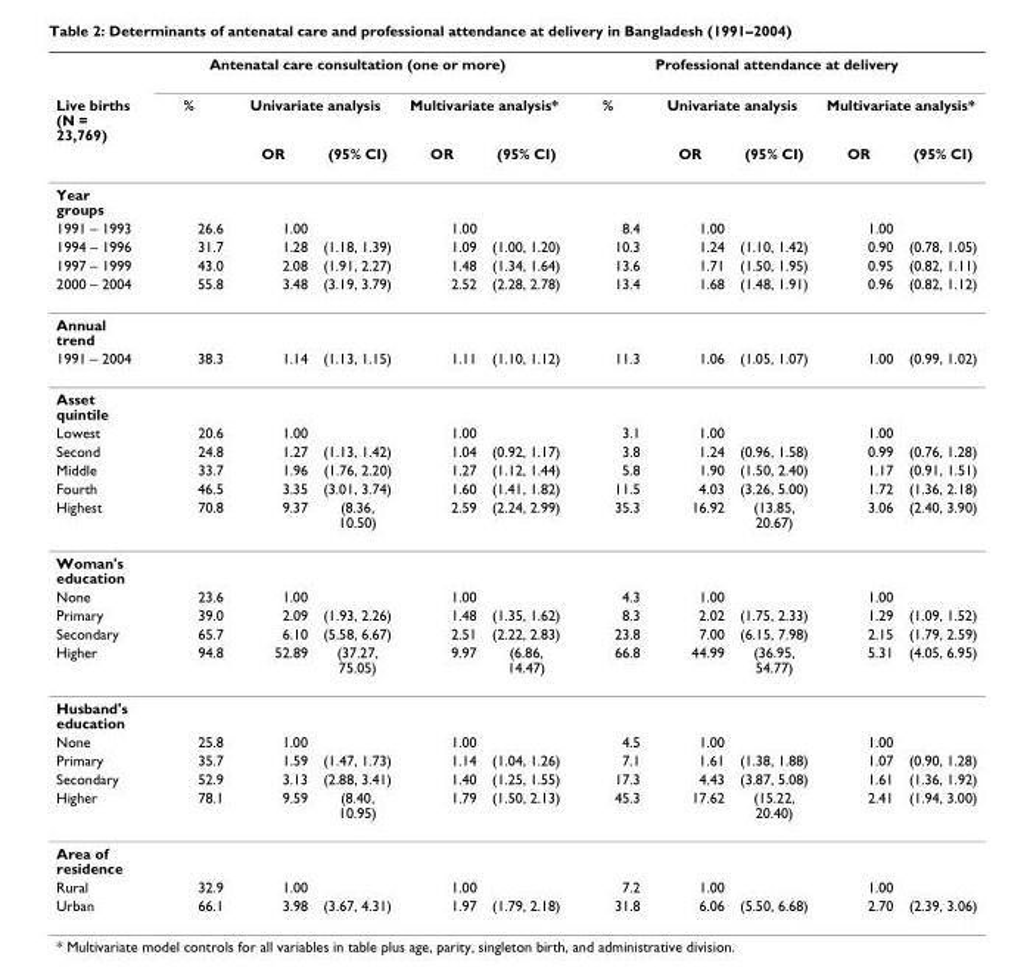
<table><thead><tr><td rowspan="3">Live births (N = 23,769)</td><td colspan="5">Antenatal care consultation (one or more)</td><td colspan="5">Professional attendance at delivery</td></tr><tr><td rowspan="2">%</td><td colspan="2">Univariate analysis</td><td colspan="2">Multivariate analysis*</td><td rowspan="2">%</td><td colspan="2">Univariate analysis</td><td colspan="2">Multivariate analysis*</td></tr><tr><td>OR</td><td>(95% CI)</td><td>OR</td><td>(95% CI)</td><td>OR</td><td>(95% CI)</td><td>OR</td><td>(95% CI)</td></tr></thead><tbody><tr><td colspan="11">Year groups</td></tr><tr><td>1991 – 1993</td><td>26.6</td><td>1.00</td><td></td><td>1.00</td><td></td><td>8.4</td><td>1.00</td><td></td><td>1.00</td><td></td></tr><tr><td>1994 – 1996</td><td>31.7</td><td>1.28</td><td>(1.18, 1.39)</td><td>1.09</td><td>(1.00, 1.20)</td><td>10.3</td><td>1.24</td><td>(1.10, 1.42)</td><td>0.90</td><td>(0.78, 1.05)</td></tr><tr><td>1997 – 1999</td><td>43.0</td><td>2.08</td><td>(1.91, 2.27)</td><td>1.48</td><td>(1.34, 1.64)</td><td>13.6</td><td>1.71</td><td>(1.50, 1.95)</td><td>0.95</td><td>(0.82, 1.11)</td></tr><tr><td>2000 – 2004</td><td>55.8</td><td>3.48</td><td>(3.19, 3.79)</td><td>2.52</td><td>(2.28, 2.78)</td><td>13.4</td><td>1.68</td><td>(1.48, 1.91)</td><td>0.96</td><td>(0.82, 1.12)</td></tr><tr><td colspan="11">Annual trend</td></tr><tr><td>1991 – 2004</td><td>38.3</td><td>1.14</td><td>(1.13, 1.15)</td><td>1.11</td><td>(1.10, 1.12)</td><td>11.3</td><td>1.06</td><td>(1.05, 1.07)</td><td>1.00</td><td>(0.99, 1.02)</td></tr><tr><td colspan="11">Asset quintile</td></tr><tr><td>Lowest</td><td>20.6</td><td>1.00</td><td></td><td>1.00</td><td></td><td>3.1</td><td>1.00</td><td></td><td>1.00</td><td></td></tr><tr><td>Second</td><td>24.8</td><td>1.27</td><td>(1.13, 1.42)</td><td>1.04</td><td>(0.92, 1.17)</td><td>3.8</td><td>1.24</td><td>(0.96, 1.58)</td><td>0.99</td><td>(0.76, 1.28)</td></tr><tr><td>Middle</td><td>33.7</td><td>1.96</td><td>(1.76, 2.20)</td><td>1.27</td><td>(1.12, 1.44)</td><td>5.8</td><td>1.90</td><td>(1.50, 2.40)</td><td>1.17</td><td>(0.91, 1.51)</td></tr><tr><td>Fourth</td><td>46.5</td><td>3.35</td><td>(3.01, 3.74)</td><td>1.60</td><td>(1.41, 1.82)</td><td>11.5</td><td>4.03</td><td>(3.26, 5.00)</td><td>1.72</td><td>(1.36, 2.18)</td></tr><tr><td>Highest</td><td>70.8</td><td>9.37</td><td>(8.36, 10.50)</td><td>2.59</td><td>(2.24, 2.99)</td><td>35.3</td><td>16.92</td><td>(13.85, 20.67)</td><td>3.06</td><td>(2.40, 3.90)</td></tr><tr><td colspan="11">Woman&#x27;s education</td></tr><tr><td>None</td><td>23.6</td><td>1.00</td><td></td><td>1.00</td><td></td><td>4.3</td><td>1.00</td><td></td><td>1.00</td><td></td></tr><tr><td>Primary</td><td>39.0</td><td>2.09</td><td>(1.93, 2.26)</td><td>1.48</td><td>(1.35, 1.62)</td><td>8.3</td><td>2.02</td><td>(1.75, 2.33)</td><td>1.29</td><td>(1.09, 1.52)</td></tr><tr><td>Secondary</td><td>65.7</td><td>6.10</td><td>(5.58, 6.67)</td><td>2.51</td><td>(2.22, 2.83)</td><td>23.8</td><td>7.00</td><td>(6.15, 7.98)</td><td>2.15</td><td>(1.79, 2.59)</td></tr><tr><td>Higher</td><td>94.8</td><td>52.89</td><td>(37.27, 75.05)</td><td>9.97</td><td>(6.86, 14.47)</td><td>66.8</td><td>44.99</td><td>(36.95, 54.77)</td><td>5.31</td><td>(4.05, 6.95)</td></tr><tr><td colspan="11">Husband&#x27;s education</td></tr><tr><td>None</td><td>25.8</td><td>1.00</td><td></td><td>1.00</td><td></td><td>4.5</td><td>1.00</td><td></td><td>1.00</td><td></td></tr><tr><td>Primary</td><td>35.7</td><td>1.59</td><td>(1.47, 1.73)</td><td>1.14</td><td>(1.04, 1.26)</td><td>7.1</td><td>1.61</td><td>(1.38, 1.88)</td><td>1.07</td><td>(0.90, 1.28)</td></tr><tr><td>Secondary</td><td>52.9</td><td>3.13</td><td>(2.88, 3.41)</td><td>1.40</td><td>(1.25, 1.55)</td><td>17.3</td><td>4.43</td><td>(3.87, 5.08)</td><td>1.61</td><td>(1.36, 1.92)</td></tr><tr><td>Higher</td><td>78.1</td><td>9.59</td><td>(8.40, 10.95)</td><td>1.79</td><td>(1.50, 2.13)</td><td>45.3</td><td>17.62</td><td>(15.22, 20.40)</td><td>2.41</td><td>(1.94, 3.00)</td></tr><tr><td colspan="11">Area of residence</td></tr><tr><td>Rural</td><td>32.9</td><td>1.00</td><td></td><td>1.00</td><td></td><td>7.2</td><td>1.00</td><td></td><td>1.00</td><td></td></tr><tr><td>Urban</td><td>66.1</td><td>3.98</td><td>(3.67, 4.31)</td><td>1.97</td><td>(1.79, 2.18)</td><td>31.8</td><td>6.06</td><td>(5.50, 6.68)</td><td>2.70</td><td>(2.39, 3.06)</td></tr></tbody></table>